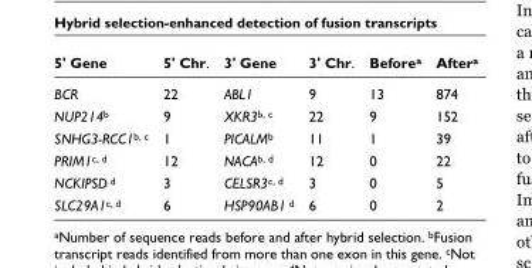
<table><thead><tr><td>5&#x27; Gene</td><td>5&#x27; Chr.</td><td>3&#x27; Gene</td><td>3&#x27; Chr.</td><td>Before<sup>a</sup></td><td>After<sup>a</sup></td></tr></thead><tbody><tr><td>BCR</td><td>22</td><td>ABL1</td><td>9</td><td>13</td><td>874</td></tr><tr><td>NUP214<sup>b</sup></td><td>9</td><td>XKR3<sup>b, c</sup></td><td>22</td><td>9</td><td>152</td></tr><tr><td>SNHG3-RCC1<sup>b, c</sup></td><td>1</td><td>PICALM<sup>b</sup></td><td>11</td><td>1</td><td>39</td></tr><tr><td>PRIM1<sup>c, d</sup></td><td>12</td><td>NACA<sup>b, d</sup></td><td>12</td><td>0</td><td>22</td></tr><tr><td>NCKIPSD <sup>d</sup></td><td>3</td><td>CELSR3<sup>c, d</sup></td><td>3</td><td>0</td><td>5</td></tr><tr><td>SLC29A1<sup>c, d</sup></td><td>6</td><td>HSP90AB1 <sup>d</sup></td><td>6</td><td>0</td><td>2</td></tr></tbody></table>